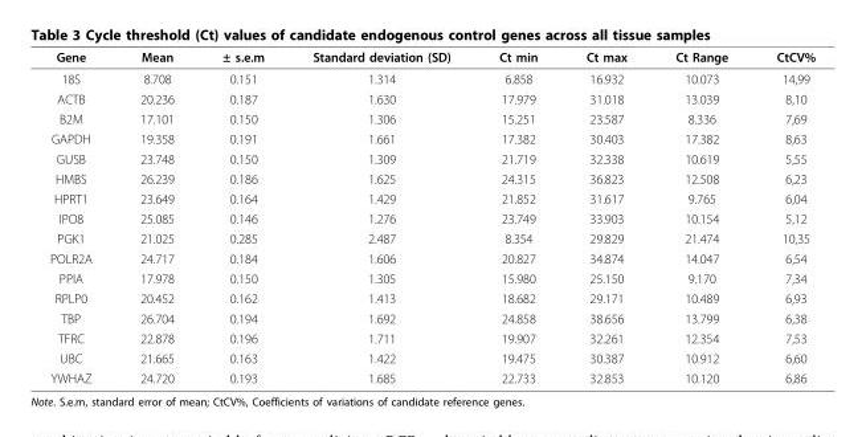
<table><thead><tr><td>Gene</td><td>Mean</td><td>± s.e.m</td><td>Standard deviation (SD)</td><td>Ct min</td><td>Ct max</td><td>Ct Range</td><td>CtCV%</td></tr></thead><tbody><tr><td>18S</td><td>8.708</td><td>0.151</td><td>1.314</td><td>6.858</td><td>16.932</td><td>10.073</td><td>14,99</td></tr><tr><td>ACTB</td><td>20.236</td><td>0.187</td><td>1.630</td><td>17.979</td><td>31.018</td><td>13.039</td><td>8,10</td></tr><tr><td>B2M</td><td>17.101</td><td>0.150</td><td>1.306</td><td>15.251</td><td>23.587</td><td>8.336</td><td>7,69</td></tr><tr><td>GAPDH</td><td>19.358</td><td>0.191</td><td>1.661</td><td>17.382</td><td>30.403</td><td>17.382</td><td>8,63</td></tr><tr><td>GUSB</td><td>23.748</td><td>0.150</td><td>1.309</td><td>21.719</td><td>32.338</td><td>10.619</td><td>5,55</td></tr><tr><td>HMBS</td><td>26.239</td><td>0.186</td><td>1.625</td><td>24.315</td><td>36.823</td><td>12.508</td><td>6,23</td></tr><tr><td>HPRT1</td><td>23.649</td><td>0.164</td><td>1.429</td><td>21.852</td><td>31.617</td><td>9.765</td><td>6,04</td></tr><tr><td>IPO8</td><td>25.085</td><td>0.146</td><td>1.276</td><td>23.749</td><td>33.903</td><td>10.154</td><td>5,12</td></tr><tr><td>PGK1</td><td>21.025</td><td>0.285</td><td>2.487</td><td>8.354</td><td>29.829</td><td>21.474</td><td>10,35</td></tr><tr><td>POLR2A</td><td>24.717</td><td>0.184</td><td>1.606</td><td>20.827</td><td>34.874</td><td>14.047</td><td>6,54</td></tr><tr><td>PPIA</td><td>17.978</td><td>0.150</td><td>1.305</td><td>15.980</td><td>25.150</td><td>9.170</td><td>7,34</td></tr><tr><td>RPLP0</td><td>20.452</td><td>0.162</td><td>1.413</td><td>18.682</td><td>29.171</td><td>10.489</td><td>6,93</td></tr><tr><td>TBP</td><td>26.704</td><td>0.194</td><td>1.692</td><td>24.858</td><td>38.656</td><td>13.799</td><td>6,38</td></tr><tr><td>TFRC</td><td>22.878</td><td>0.196</td><td>1.711</td><td>19.907</td><td>32.261</td><td>12.354</td><td>7,53</td></tr><tr><td>UBC</td><td>21.665</td><td>0.163</td><td>1.422</td><td>19.475</td><td>30.387</td><td>10.912</td><td>6,60</td></tr><tr><td>YWHAZ</td><td>24.720</td><td>0.193</td><td>1.685</td><td>22.733</td><td>32.853</td><td>10.120</td><td>6,86</td></tr></tbody></table>